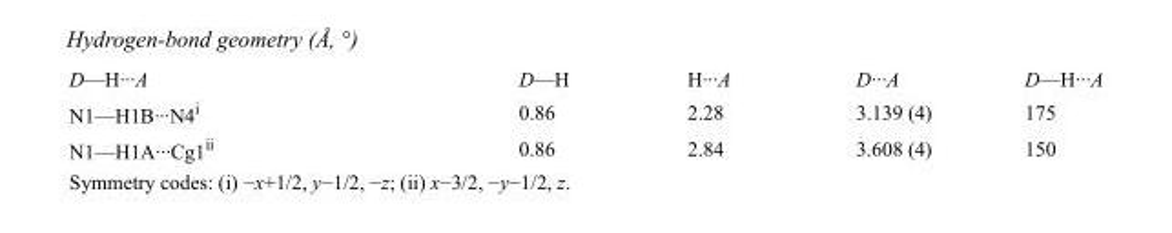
<table><tbody><tr><td>D—H···A</td><td>D—H</td><td>H···A</td><td>D···A</td><td>D—H···A</td></tr><tr><td>N1—H1B···N4<sup>i</sup></td><td>0.86</td><td>2.28</td><td>3.139 (4)</td><td>175</td></tr><tr><td>N1—H1A···Cg1<sup>ii</sup></td><td>0.86</td><td>2.84</td><td>3.608 (4)</td><td>150</td></tr></tbody></table>